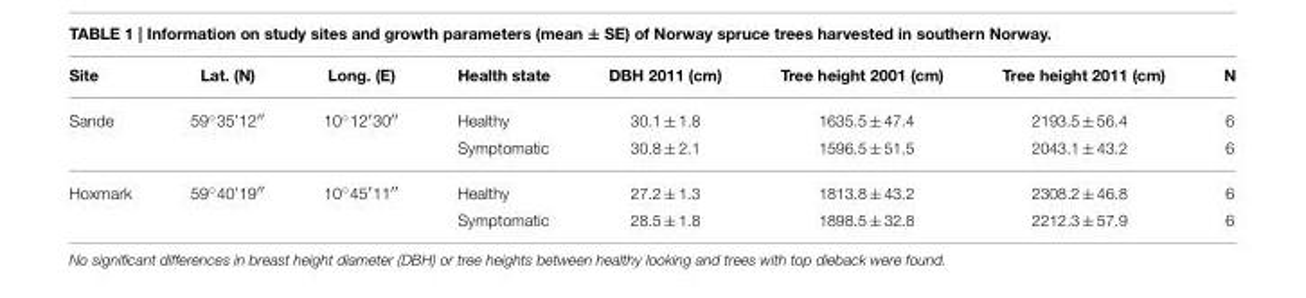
<table><thead><tr><td>Site</td><td>Lat. (N)</td><td>Long. (E)</td><td>Health state</td><td>DBH 2011 (cm)</td><td>Tree height 2001 (cm)</td><td>Tree height 2011 (cm)</td><td>N</td></tr></thead><tbody><tr><td rowspan="2">Sande</td><td>59◦35’12′′</td><td>10◦12′30′′</td><td>Healthy</td><td>30.1 ± 1.8</td><td>1635.5 ± 47.4</td><td>2193.5 ± 56.4</td><td>6</td></tr><tr><td></td><td></td><td>Symptomatic</td><td>30.8 ± 2.1</td><td>1596.5 ± 51.5</td><td>2043.1 ± 43.2</td><td>6</td></tr><tr><td rowspan="2">Hoxmark</td><td>59◦40’19′′</td><td>10◦45′11′′</td><td>Healthy</td><td>27.2 ± 1.3</td><td>1813.8 ± 43.2</td><td>2308.2 ± 46.8</td><td>6</td></tr><tr><td></td><td></td><td>Symptomatic</td><td>28.5 ± 1.8</td><td>1898.5 ± 32.8</td><td>2212.3 ± 57.9</td><td>6</td></tr></tbody></table>